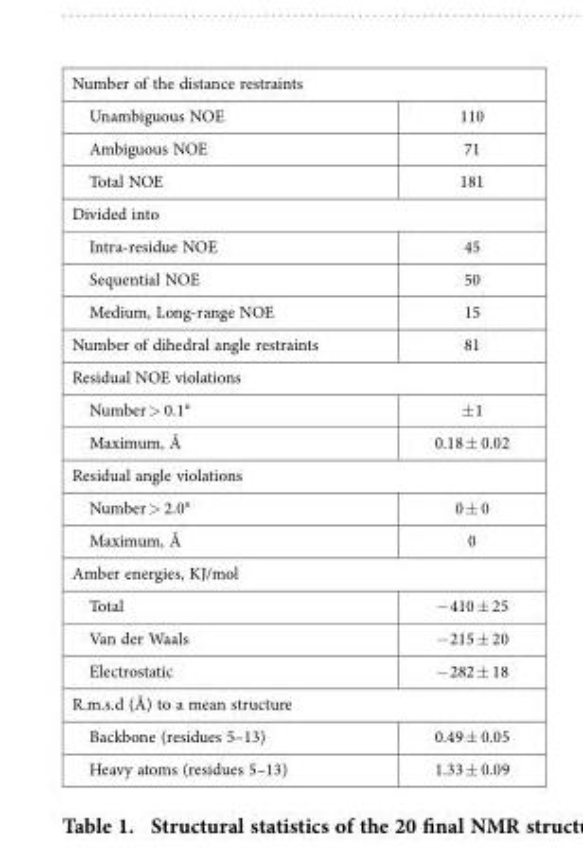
<table><tbody><tr><td colspan="2">Number of the distance restraints</td></tr><tr><td>Unambiguous NOE</td><td>110</td></tr><tr><td>Ambiguous NOE</td><td>71</td></tr><tr><td>Total NOE</td><td>181</td></tr><tr><td colspan="2">Divided into</td></tr><tr><td>Intra-residue NOE</td><td>45</td></tr><tr><td>Sequential NOE</td><td>50</td></tr><tr><td>Medium, Long-range NOE</td><td>15</td></tr><tr><td>Number of dihedral angle restraints</td><td>81</td></tr><tr><td colspan="2">Residual NOE violations</td></tr><tr><td>Number &gt; 0.1°</td><td>± 1</td></tr><tr><td>Maximum, Å</td><td>0.18 ± 0.02</td></tr><tr><td colspan="2">Residual angle violations</td></tr><tr><td>Number &gt; 2.0°</td><td>0 ± 0</td></tr><tr><td>Maximum, Å</td><td>0</td></tr><tr><td colspan="2">Amber energies, KJ/mol</td></tr><tr><td>Total</td><td>− 410 ± 25</td></tr><tr><td>Van der Waals</td><td>− 215 ± 20</td></tr><tr><td>Electrostatic</td><td>− 282 ± 18</td></tr><tr><td colspan="2">R.m.s.d (Å) to a mean structure</td></tr><tr><td>Backbone (residues 5–13)</td><td>0.49 ± 0.05</td></tr><tr><td>Heavy atoms (residues 5–13)</td><td>1.33 ± 0.09</td></tr></tbody></table>